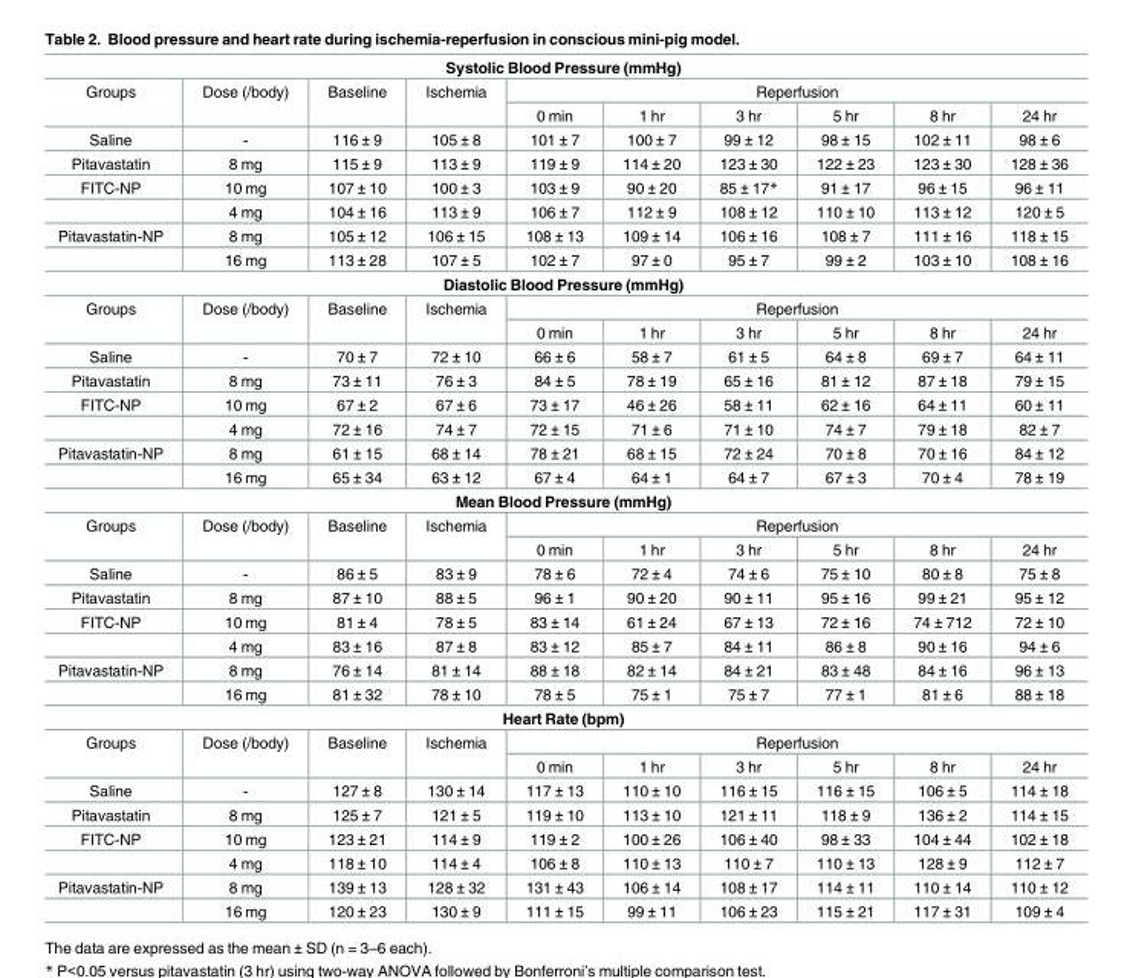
<table><tbody><tr><td colspan="10">Systolic Blood Pressure (mmHg)</td></tr><tr><td rowspan="2">Groups</td><td rowspan="2">Dose (/body)</td><td rowspan="2">Baseline</td><td rowspan="2">Ischemia</td><td colspan="6">Reperfusion</td></tr><tr><td>0 min</td><td>1 hr</td><td>3 hr</td><td>5 hr</td><td>8 hr</td><td>24 hr</td></tr><tr><td>Saline</td><td>-</td><td>116 ± 9</td><td>105 ± 8</td><td>101 ± 7</td><td>100 ± 7</td><td>99 ± 12</td><td>98 ± 15</td><td>102 ± 11</td><td>98 ± 6</td></tr><tr><td>Pitavastatin</td><td>8 mg</td><td>115 ± 9</td><td>113 ± 9</td><td>119 ± 9</td><td>114 ± 20</td><td>123 ± 30</td><td>122 ± 23</td><td>123 ± 30</td><td>128 ± 36</td></tr><tr><td rowspan="2">FITC-NP</td><td>10 mg</td><td>107 ± 10</td><td>100 ± 3</td><td>103 ± 9</td><td>90 ± 20</td><td>85 ± 17*</td><td>91 ± 17</td><td>96 ± 15</td><td>96 ± 11</td></tr><tr><td>4 mg</td><td>104 ± 16</td><td>113 ± 9</td><td>106 ± 7</td><td>112 ± 9</td><td>108 ± 12</td><td>110 ± 10</td><td>113 ± 12</td><td>120 ± 5</td></tr><tr><td rowspan="2">Pitavastatin-NP</td><td>8 mg</td><td>105 ± 12</td><td>106 ± 15</td><td>108 ± 13</td><td>109 ± 14</td><td>106 ± 16</td><td>108 ± 7</td><td>111 ± 16</td><td>118 ± 15</td></tr><tr><td>16 mg</td><td>113 ± 28</td><td>107 ± 5</td><td>102 ± 7</td><td>97 ± 0</td><td>95 ± 7</td><td>99 ± 2</td><td>103 ± 10</td><td>108 ± 16</td></tr><tr><td colspan="10">Diastolic Blood Pressure (mmHg)</td></tr><tr><td rowspan="2">Groups</td><td rowspan="2">Dose (/body)</td><td rowspan="2">Baseline</td><td rowspan="2">Ischemia</td><td colspan="6">Reperfusion</td></tr><tr><td>0 min</td><td>1 hr</td><td>3 hr</td><td>5 hr</td><td>8 hr</td><td>24 hr</td></tr><tr><td>Saline</td><td>-</td><td>70 ± 7</td><td>72 ± 10</td><td>66 ± 6</td><td>58 ± 7</td><td>61 ± 5</td><td>64 ± 8</td><td>69 ± 7</td><td>64 ± 11</td></tr><tr><td>Pitavastatin</td><td>8 mg</td><td>73 ± 11</td><td>76 ± 3</td><td>84 ± 5</td><td>78 ± 19</td><td>65 ± 16</td><td>81 ± 12</td><td>87 ± 18</td><td>79 ± 15</td></tr><tr><td rowspan="2">FITC-NP</td><td>10 mg</td><td>67 ± 2</td><td>67 ± 6</td><td>73 ± 17</td><td>46 ± 26</td><td>58 ± 11</td><td>62 ± 16</td><td>64 ± 11</td><td>60 ± 11</td></tr><tr><td>4 mg</td><td>72 ± 16</td><td>74 ± 7</td><td>72 ± 15</td><td>71 ± 6</td><td>71 ± 10</td><td>74 ± 7</td><td>79 ± 18</td><td>82 ± 7</td></tr><tr><td rowspan="2">Pitavastatin-NP</td><td>8 mg</td><td>61 ± 15</td><td>68 ± 14</td><td>78 ± 21</td><td>68 ± 15</td><td>72 ± 24</td><td>70 ± 8</td><td>70 ± 16</td><td>84 ± 12</td></tr><tr><td>16 mg</td><td>65 ± 34</td><td>63 ± 12</td><td>67 ± 4</td><td>64 ± 1</td><td>64 ± 7</td><td>67 ± 3</td><td>70 ± 4</td><td>78 ± 19</td></tr><tr><td colspan="10">Mean Blood Pressure (mmHg)</td></tr><tr><td rowspan="2">Groups</td><td rowspan="2">Dose (/body)</td><td rowspan="2">Baseline</td><td rowspan="2">Ischemia</td><td colspan="6">Reperfusion</td></tr><tr><td>0 min</td><td>1 hr</td><td>3 hr</td><td>5 hr</td><td>8 hr</td><td>24 hr</td></tr><tr><td>Saline</td><td>-</td><td>86 ± 5</td><td>83 ± 9</td><td>78 ± 6</td><td>72 ± 4</td><td>74 ± 6</td><td>75 ± 10</td><td>80 ± 8</td><td>75 ± 8</td></tr><tr><td>Pitavastatin</td><td>8 mg</td><td>87 ± 10</td><td>88 ± 5</td><td>96 ± 1</td><td>90 ± 20</td><td>90 ± 11</td><td>95 ± 16</td><td>99 ± 21</td><td>95 ± 12</td></tr><tr><td rowspan="2">FITC-NP</td><td>10 mg</td><td>81 ± 4</td><td>78 ± 5</td><td>83 ± 14</td><td>61 ± 24</td><td>67 ± 13</td><td>72 ± 16</td><td>74 ± 712</td><td>72 ± 10</td></tr><tr><td>4 mg</td><td>83 ± 16</td><td>87 ± 8</td><td>83 ± 12</td><td>85 ± 7</td><td>84 ± 11</td><td>86 ± 8</td><td>90 ± 16</td><td>94 ± 6</td></tr><tr><td rowspan="2">Pitavastatin-NP</td><td>8 mg</td><td>76 ± 14</td><td>81 ± 14</td><td>88 ± 18</td><td>82 ± 14</td><td>84 ± 21</td><td>83 ± 48</td><td>84 ± 16</td><td>96 ± 13</td></tr><tr><td>16 mg</td><td>81 ± 32</td><td>78 ± 10</td><td>78 ± 5</td><td>75 ± 1</td><td>75 ± 7</td><td>77 ± 1</td><td>81 ± 6</td><td>88 ± 18</td></tr><tr><td colspan="10">Heart Rate (bpm)</td></tr><tr><td rowspan="2">Groups</td><td rowspan="2">Dose (/body)</td><td rowspan="2">Baseline</td><td rowspan="2">Ischemia</td><td colspan="6">Reperfusion</td></tr><tr><td>0 min</td><td>1 hr</td><td>3 hr</td><td>5 hr</td><td>8 hr</td><td>24 hr</td></tr><tr><td>Saline</td><td>-</td><td>127 ± 8</td><td>130 ± 14</td><td>117 ± 13</td><td>110 ± 10</td><td>116 ± 15</td><td>116 ± 15</td><td>106 ± 5</td><td>114 ± 18</td></tr><tr><td>Pitavastatin</td><td>8 mg</td><td>125 ± 7</td><td>121 ± 5</td><td>119 ± 10</td><td>113 ± 10</td><td>121 ± 11</td><td>118 ± 9</td><td>136 ± 2</td><td>114 ± 15</td></tr><tr><td rowspan="2">FITC-NP</td><td>10 mg</td><td>123 ± 21</td><td>114 ± 9</td><td>119 ± 2</td><td>100 ± 26</td><td>106 ± 40</td><td>98 ± 33</td><td>104 ± 44</td><td>102 ± 18</td></tr><tr><td>4 mg</td><td>118 ± 10</td><td>114 ± 4</td><td>106 ± 8</td><td>110 ± 13</td><td>110 ± 7</td><td>110 ± 13</td><td>128 ± 9</td><td>112 ± 7</td></tr><tr><td rowspan="2">Pitavastatin-NP</td><td>8 mg</td><td>139 ± 13</td><td>128 ± 32</td><td>131 ± 43</td><td>106 ± 14</td><td>108 ± 17</td><td>114 ± 11</td><td>110 ± 14</td><td>110 ± 12</td></tr><tr><td>16 mg</td><td>120 ± 23</td><td>130 ± 9</td><td>111 ± 15</td><td>99 ± 11</td><td>106 ± 23</td><td>115 ± 21</td><td>117 ± 31</td><td>109 ± 4</td></tr></tbody></table>